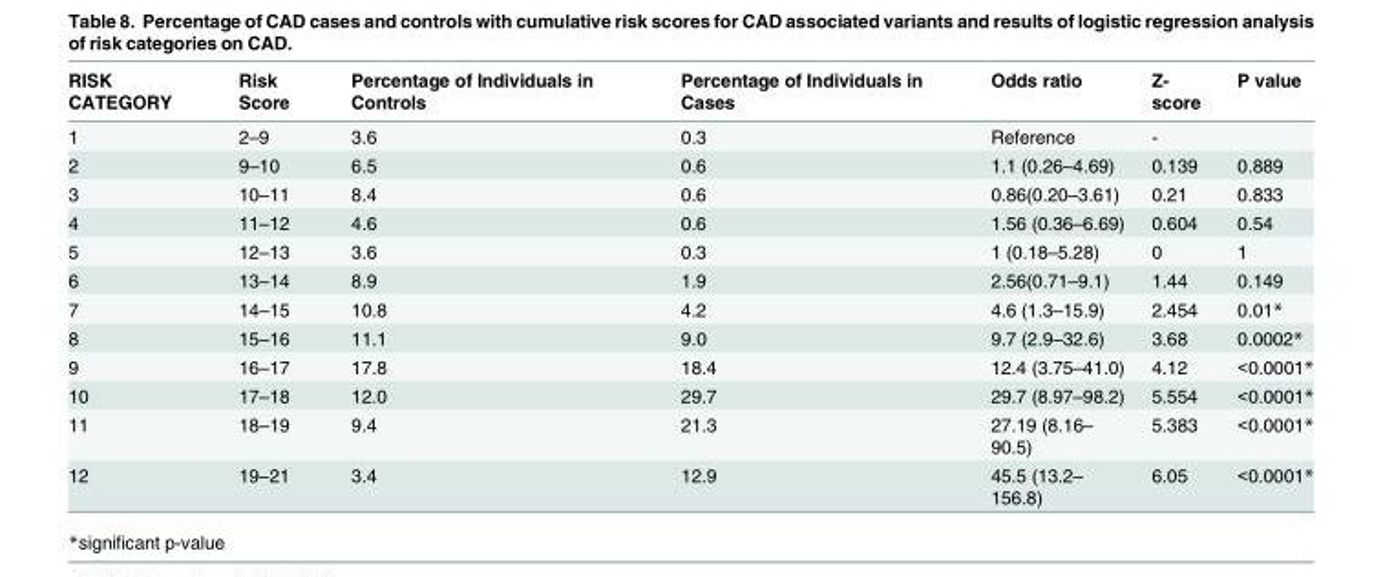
<table><thead><tr><td>RISK CATEGORY</td><td>Risk Score</td><td>Percentage of Individuals in Controls</td><td>Percentage of Individuals in Cases</td><td>Odds ratio</td><td>Z- score</td><td>P value</td></tr></thead><tbody><tr><td>1</td><td>2–9</td><td>3.6</td><td>0.3</td><td>Reference</td><td>-</td><td></td></tr><tr><td>2</td><td>9–10</td><td>6.5</td><td>0.6</td><td>1.1 (0.26–4.69)</td><td>0.139</td><td>0.889</td></tr><tr><td>3</td><td>10–11</td><td>8.4</td><td>0.6</td><td>0.86(0.20–3.61)</td><td>0.21</td><td>0.833</td></tr><tr><td>4</td><td>11–12</td><td>4.6</td><td>0.6</td><td>1.56 (0.36–6.69)</td><td>0.604</td><td>0.54</td></tr><tr><td>5</td><td>12–13</td><td>3.6</td><td>0.3</td><td>1 (0.18–5.28)</td><td>0</td><td>1</td></tr><tr><td>6</td><td>13–14</td><td>8.9</td><td>1.9</td><td>2.56(0.71–9.1)</td><td>1.44</td><td>0.149</td></tr><tr><td>7</td><td>14–15</td><td>10.8</td><td>4.2</td><td>4.6 (1.3–15.9)</td><td>2.454</td><td>0.01*</td></tr><tr><td>8</td><td>15–16</td><td>11.1</td><td>9.0</td><td>9.7 (2.9–32.6)</td><td>3.68</td><td>0.0002*</td></tr><tr><td>9</td><td>16–17</td><td>17.8</td><td>18.4</td><td>12.4 (3.75–41.0)</td><td>4.12</td><td>&lt;0.0001*</td></tr><tr><td>10</td><td>17–18</td><td>12.0</td><td>29.7</td><td>29.7 (8.97–98.2)</td><td>5.554</td><td>&lt;0.0001*</td></tr><tr><td>11</td><td>18–19</td><td>9.4</td><td>21.3</td><td>27.19 (8.16– 90.5)</td><td>5.383</td><td>&lt;0.0001*</td></tr><tr><td>12</td><td>19–21</td><td>3.4</td><td>12.9</td><td>45.5 (13.2– 156.8)</td><td>6.05</td><td>&lt;0.0001*</td></tr></tbody></table>